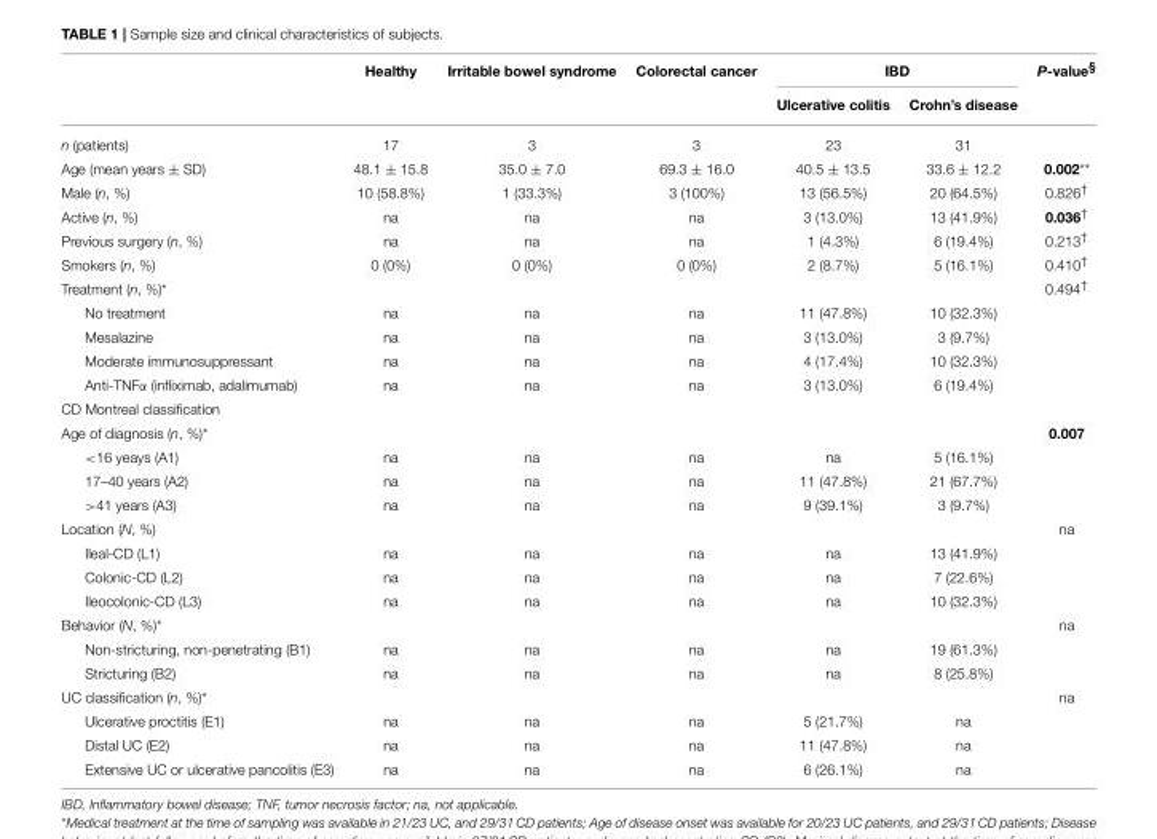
<table><thead><tr><td rowspan="2"></td><td rowspan="2">Healthy</td><td rowspan="2">Irritable bowel syndrome</td><td rowspan="2">Colorectal cancer</td><td colspan="2">IBD</td><td rowspan="2">P-value<sup>§</sup></td></tr><tr><td>Ulcerative colitis</td><td>Crohn’s disease</td></tr></thead><tbody><tr><td>n (patients)</td><td>17</td><td>3</td><td>3</td><td>23</td><td>31</td><td></td></tr><tr><td>Age (mean years ± SD)</td><td>48.1 ± 15.8</td><td>35.0 ± 7.0</td><td>69.3 ± 16.0</td><td>40.5 ± 13.5</td><td>33.6 ± 12.2</td><td>0.002**</td></tr><tr><td>Male (n, %)</td><td>10 (58.8%)</td><td>1 (33.3%)</td><td>3 (100%)</td><td>13 (56.5%)</td><td>20 (64.5%)</td><td>0.826<sup>†</sup></td></tr><tr><td>Active (n, %)</td><td>na</td><td>na</td><td>na</td><td>3 (13.0%)</td><td>13 (41.9%)</td><td>0.036<sup>†</sup></td></tr><tr><td>Previous surgery (n, %)</td><td>na</td><td>na</td><td>na</td><td>1 (4.3%)</td><td>6 (19.4%)</td><td>0.213<sup>†</sup></td></tr><tr><td>Smokers (n, %)</td><td>0 (0%)</td><td>0 (0%)</td><td>0 (0%)</td><td>2 (8.7%)</td><td>5 (16.1%)</td><td>0.410<sup>†</sup></td></tr><tr><td>Treatment (n, %)*</td><td></td><td></td><td></td><td></td><td></td><td>0.494<sup>†</sup></td></tr><tr><td>No treatment</td><td>na</td><td>na</td><td>na</td><td>11 (47.8%)</td><td>10 (32.3%)</td><td></td></tr><tr><td>Mesalazine</td><td>na</td><td>na</td><td>na</td><td>3 (13.0%)</td><td>3 (9.7%)</td><td></td></tr><tr><td>Moderate immunosuppressant</td><td>na</td><td>na</td><td>na</td><td>4 (17.4%)</td><td>10 (32.3%)</td><td></td></tr><tr><td>Anti-TNFα (infliximab, adalimumab)</td><td>na</td><td>na</td><td>na</td><td>3 (13.0%)</td><td>6 (19.4%)</td><td></td></tr><tr><td colspan="7">CD Montreal classification</td></tr><tr><td>Age of diagnosis (n, %)*</td><td></td><td></td><td></td><td></td><td></td><td>0.007</td></tr><tr><td>&lt;16 yeays (A1)</td><td>na</td><td>na</td><td>na</td><td>na</td><td>5 (16.1%)</td><td></td></tr><tr><td>17–40 years (A2)</td><td>na</td><td>na</td><td>na</td><td>11 (47.8%)</td><td>21 (67.7%)</td><td></td></tr><tr><td>&gt;41 years (A3)</td><td>na</td><td>na</td><td>na</td><td>9 (39.1%)</td><td>3 (9.7%)</td><td></td></tr><tr><td>Location (N, %)</td><td></td><td></td><td></td><td></td><td></td><td>na</td></tr><tr><td>Ileal-CD (L1)</td><td>na</td><td>na</td><td>na</td><td>na</td><td>13 (41.9%)</td><td></td></tr><tr><td>Colonic-CD (L2)</td><td>na</td><td>na</td><td>na</td><td>na</td><td>7 (22.6%)</td><td></td></tr><tr><td>Ileocolonic-CD (L3)</td><td>na</td><td>na</td><td>na</td><td>na</td><td>10 (32.3%)</td><td></td></tr><tr><td>Behavior (N, %)*</td><td></td><td></td><td></td><td></td><td></td><td>na</td></tr><tr><td>Non-stricturing, non-penetrating (B1)</td><td>na</td><td>na</td><td>na</td><td>na</td><td>19 (61.3%)</td><td></td></tr><tr><td>Stricturing (B2)</td><td>na</td><td>na</td><td>na</td><td>na</td><td>8 (25.8%)</td><td></td></tr><tr><td>UC classification (n, %)*</td><td></td><td></td><td></td><td></td><td></td><td>na</td></tr><tr><td>Ulcerative proctitis (E1)</td><td>na</td><td>na</td><td>na</td><td>5 (21.7%)</td><td>na</td><td></td></tr><tr><td>Distal UC (E2)</td><td>na</td><td>na</td><td>na</td><td>11 (47.8%)</td><td>na</td><td></td></tr><tr><td>Extensive UC or ulcerative pancolitis (E3)</td><td>na</td><td>na</td><td>na</td><td>6 (26.1%)</td><td>na</td><td></td></tr></tbody></table>